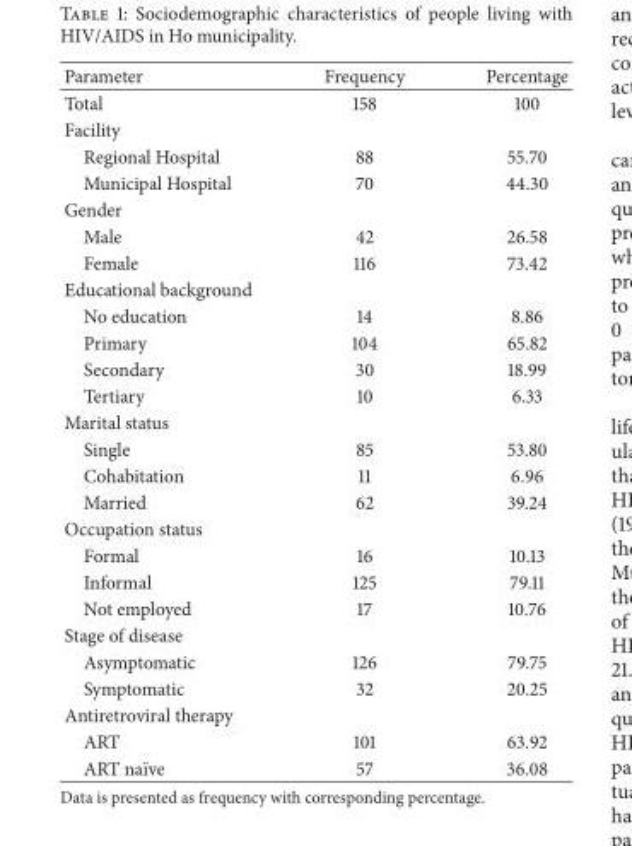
<table><thead><tr><td>Parameter</td><td>Frequency</td><td>Percentage</td></tr></thead><tbody><tr><td>Total</td><td>158</td><td>100</td></tr><tr><td colspan="3">Facility</td></tr><tr><td>Regional Hospital</td><td>88</td><td>55.70</td></tr><tr><td>Municipal Hospital</td><td>70</td><td>44.30</td></tr><tr><td colspan="3">Gender</td></tr><tr><td>Male</td><td>42</td><td>26.58</td></tr><tr><td>Female</td><td>116</td><td>73.42</td></tr><tr><td colspan="3">Educational background</td></tr><tr><td>No education</td><td>14</td><td>8.86</td></tr><tr><td>Primary</td><td>104</td><td>65.82</td></tr><tr><td>Secondary</td><td>30</td><td>18.99</td></tr><tr><td>Tertiary</td><td>10</td><td>6.33</td></tr><tr><td colspan="3">Marital status</td></tr><tr><td>Single</td><td>85</td><td>53.80</td></tr><tr><td>Cohabitation</td><td>11</td><td>6.96</td></tr><tr><td>Married</td><td>62</td><td>39.24</td></tr><tr><td colspan="3">Occupation status</td></tr><tr><td>Formal</td><td>16</td><td>10.13</td></tr><tr><td>Informal</td><td>125</td><td>79.11</td></tr><tr><td>Not employed</td><td>17</td><td>10.76</td></tr><tr><td colspan="3">Stage of disease</td></tr><tr><td>Asymptomatic</td><td>126</td><td>79.75</td></tr><tr><td>Symptomatic</td><td>32</td><td>20.25</td></tr><tr><td colspan="3">Antiretroviral therapy</td></tr><tr><td>ART</td><td>101</td><td>63.92</td></tr><tr><td>ART na¨ıve</td><td>57</td><td>36.08</td></tr></tbody></table>